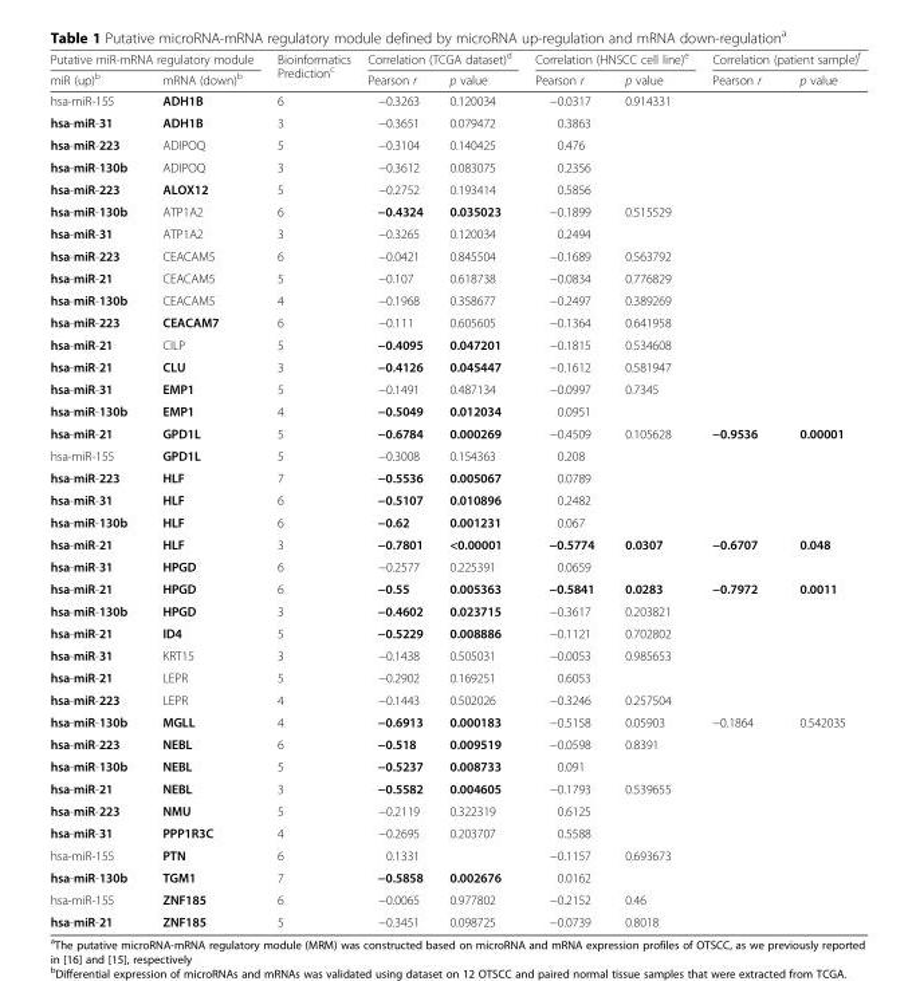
<table><thead><tr><td colspan="2">Putative miR-mRNA regulatory module</td><td rowspan="2">Bioinformatics Prediction<sup>c</sup></td><td colspan="2">Correlation (TCGA dataset)<sup>d</sup></td><td colspan="2">Correlation (HNSCC cell line)<sup>e</sup></td><td colspan="2">Correlation (patient sample)<sup>f</sup></td></tr><tr><td>miR (up)<sup>b</sup></td><td>mRNA (down)<sup>b</sup></td><td>Pearson r</td><td>p value</td><td>Pearson r</td><td>p value</td><td>Pearson r</td><td>p value</td></tr></thead><tbody><tr><td>hsa-miR-155</td><td>ADH1B</td><td>6</td><td>−0.3263</td><td>0.120034</td><td>−0.0317</td><td>0.914331</td><td></td><td></td></tr><tr><td>hsa-miR-31</td><td>ADH1B</td><td>3</td><td>−0.3651</td><td>0.079472</td><td>0.3863</td><td></td><td></td><td></td></tr><tr><td>hsa-miR-223</td><td>ADIPOQ</td><td>5</td><td>−0.3104</td><td>0.140425</td><td>0.476</td><td></td><td></td><td></td></tr><tr><td>hsa-miR-130b</td><td>ADIPOQ</td><td>3</td><td>−0.3612</td><td>0.083075</td><td>0.2356</td><td></td><td></td><td></td></tr><tr><td>hsa-miR-223</td><td>ALOX12</td><td>5</td><td>−0.2752</td><td>0.193414</td><td>0.5856</td><td></td><td></td><td></td></tr><tr><td>hsa-miR-130b</td><td>ATP1A2</td><td>6</td><td>−0.4324</td><td>0.035023</td><td>−0.1899</td><td>0.515529</td><td></td><td></td></tr><tr><td>hsa-miR-31</td><td>ATP1A2</td><td>3</td><td>−0.3265</td><td>0.120034</td><td>0.2494</td><td></td><td></td><td></td></tr><tr><td>hsa-miR-223</td><td>CEACAM5</td><td>6</td><td>−0.0421</td><td>0.845504</td><td>−0.1689</td><td>0.563792</td><td></td><td></td></tr><tr><td>hsa-miR-21</td><td>CEACAM5</td><td>5</td><td>−0.107</td><td>0.618738</td><td>−0.0834</td><td>0.776829</td><td></td><td></td></tr><tr><td>hsa-miR-130b</td><td>CEACAM5</td><td>4</td><td>−0.1968</td><td>0.358677</td><td>−0.2497</td><td>0.389269</td><td></td><td></td></tr><tr><td>hsa-miR-223</td><td>CEACAM7</td><td>6</td><td>−0.111</td><td>0.605605</td><td>−0.1364</td><td>0.641958</td><td></td><td></td></tr><tr><td>hsa-miR-21</td><td>CILP</td><td>5</td><td>−0.4095</td><td>0.047201</td><td>−0.1815</td><td>0.534608</td><td></td><td></td></tr><tr><td>hsa-miR-21</td><td>CLU</td><td>3</td><td>−0.4126</td><td>0.045447</td><td>−0.1612</td><td>0.581947</td><td></td><td></td></tr><tr><td>hsa-miR-31</td><td>EMP1</td><td>5</td><td>−0.1491</td><td>0.487134</td><td>−0.0997</td><td>0.7345</td><td></td><td></td></tr><tr><td>hsa-miR-130b</td><td>EMP1</td><td>4</td><td>−0.5049</td><td>0.012034</td><td>0.0951</td><td></td><td></td><td></td></tr><tr><td>hsa-miR-21</td><td>GPD1L</td><td>5</td><td>−0.6784</td><td>0.000269</td><td>−0.4509</td><td>0.105628</td><td>−0.9536</td><td>0.00001</td></tr><tr><td>hsa-miR-155</td><td>GPD1L</td><td>5</td><td>−0.3008</td><td>0.154363</td><td>0.208</td><td></td><td></td><td></td></tr><tr><td>hsa-miR-223</td><td>HLF</td><td>7</td><td>−0.5536</td><td>0.005067</td><td>0.0789</td><td></td><td></td><td></td></tr><tr><td>hsa-miR-31</td><td>HLF</td><td>6</td><td>−0.5107</td><td>0.010896</td><td>0.2482</td><td></td><td></td><td></td></tr><tr><td>hsa-miR-130b</td><td>HLF</td><td>6</td><td>−0.62</td><td>0.001231</td><td>0.067</td><td></td><td></td><td></td></tr><tr><td>hsa-miR-21</td><td>HLF</td><td>3</td><td>−0.7801</td><td>&lt;0.00001</td><td>−0.5774</td><td>0.0307</td><td>−0.6707</td><td>0.048</td></tr><tr><td>hsa-miR-31</td><td>HPGD</td><td>6</td><td>−0.2577</td><td>0.225391</td><td>0.0659</td><td></td><td></td><td></td></tr><tr><td>hsa-miR-21</td><td>HPGD</td><td>6</td><td>−0.55</td><td>0.005363</td><td>−0.5841</td><td>0.0283</td><td>−0.7972</td><td>0.0011</td></tr><tr><td>hsa-miR-130b</td><td>HPGD</td><td>3</td><td>−0.4602</td><td>0.023715</td><td>−0.3617</td><td>0.203821</td><td></td><td></td></tr><tr><td>hsa-miR-21</td><td>ID4</td><td>5</td><td>−0.5229</td><td>0.008886</td><td>−0.1121</td><td>0.702802</td><td></td><td></td></tr><tr><td>hsa-miR-31</td><td>KRT15</td><td>3</td><td>−0.1438</td><td>0.505031</td><td>−0.0053</td><td>0.985653</td><td></td><td></td></tr><tr><td>hsa-miR-21</td><td>LEPR</td><td>5</td><td>−0.2902</td><td>0.169251</td><td>0.6053</td><td></td><td></td><td></td></tr><tr><td>hsa-miR-223</td><td>LEPR</td><td>4</td><td>−0.1443</td><td>0.502026</td><td>−0.3246</td><td>0.257504</td><td></td><td></td></tr><tr><td>hsa-miR-130b</td><td>MGLL</td><td>4</td><td>−0.6913</td><td>0.000183</td><td>−0.5158</td><td>0.05903</td><td>−0.1864</td><td>0.542035</td></tr><tr><td>hsa-miR-223</td><td>NEBL</td><td>6</td><td>−0.518</td><td>0.009519</td><td>−0.0598</td><td>0.8391</td><td></td><td></td></tr><tr><td>hsa-miR-130b</td><td>NEBL</td><td>5</td><td>−0.5237</td><td>0.008733</td><td>0.091</td><td></td><td></td><td></td></tr><tr><td>hsa-miR-21</td><td>NEBL</td><td>3</td><td>−0.5582</td><td>0.004605</td><td>−0.1793</td><td>0.539655</td><td></td><td></td></tr><tr><td>hsa-miR-223</td><td>NMU</td><td>5</td><td>−0.2119</td><td>0.322319</td><td>0.6125</td><td></td><td></td><td></td></tr><tr><td>hsa-miR-31</td><td>PPP1R3C</td><td>4</td><td>−0.2695</td><td>0.203707</td><td>0.5588</td><td></td><td></td><td></td></tr><tr><td>hsa-miR-155</td><td>PTN</td><td>6</td><td>0.1331</td><td></td><td>−0.1157</td><td>0.693673</td><td></td><td></td></tr><tr><td>hsa-miR-130b</td><td>TGM1</td><td>7</td><td>−0.5858</td><td>0.002676</td><td>0.0162</td><td></td><td></td><td></td></tr><tr><td>hsa-miR-155</td><td>ZNF185</td><td>6</td><td>−0.0065</td><td>0.977802</td><td>−0.2152</td><td>0.46</td><td></td><td></td></tr><tr><td>hsa-miR-21</td><td>ZNF185</td><td>5</td><td>−0.3451</td><td>0.098725</td><td>−0.0739</td><td>0.8018</td><td></td><td></td></tr></tbody></table>